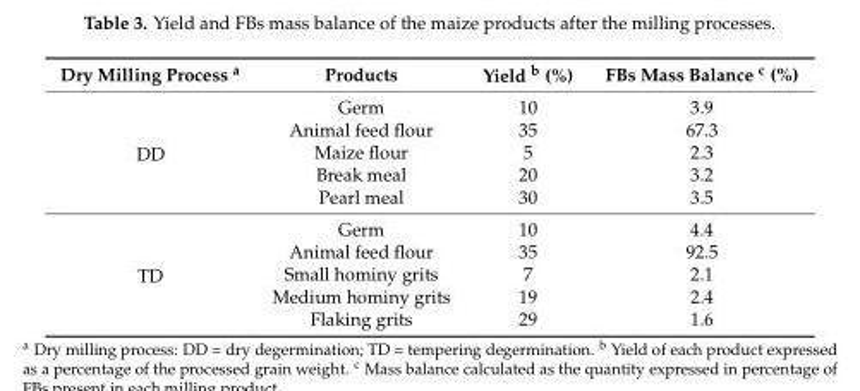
<table><thead><tr><td>Dry Milling Process <sup>a</sup></td><td>Products</td><td>Yield <sup>b</sup> (%)</td><td>FBs Mass Balance <sup>c</sup> (%)</td></tr></thead><tbody><tr><td rowspan="5">DD</td><td>Germ</td><td>10</td><td>3.9</td></tr><tr><td>Animal feed flour</td><td>35</td><td>67.3</td></tr><tr><td>Maize flour</td><td>5</td><td>2.3</td></tr><tr><td>Break meal</td><td>20</td><td>3.2</td></tr><tr><td>Pearl meal</td><td>30</td><td>3.5</td></tr><tr><td rowspan="5">TD</td><td>Germ</td><td>10</td><td>4.4</td></tr><tr><td>Animal feed flour</td><td>35</td><td>92.5</td></tr><tr><td>Small hominy grits</td><td>7</td><td>2.1</td></tr><tr><td>Medium hominy grits</td><td>19</td><td>2.4</td></tr><tr><td>Flaking grits</td><td>29</td><td>1.6</td></tr></tbody></table>